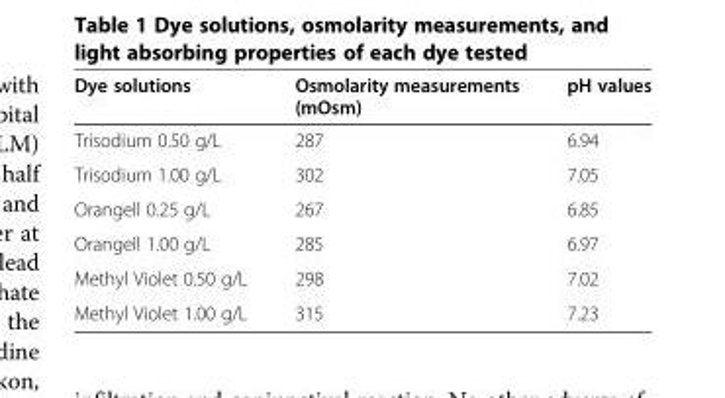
<table><thead><tr><td>Dye solutions</td><td>Osmolarity measurements (mOsm)</td><td>pH values</td></tr></thead><tbody><tr><td>Trisodium 0.50 g/L</td><td>287</td><td>6.94</td></tr><tr><td>Trisodium 1.00 g/L</td><td>302</td><td>7.05</td></tr><tr><td>Orangell 0.25 g/L</td><td>267</td><td>6.85</td></tr><tr><td>Orangell 1.00 g/L</td><td>285</td><td>6.97</td></tr><tr><td>Methyl Violet 0.50 g/L</td><td>298</td><td>7.02</td></tr><tr><td>Methyl Violet 1.00 g/L</td><td>315</td><td>7.23</td></tr></tbody></table>